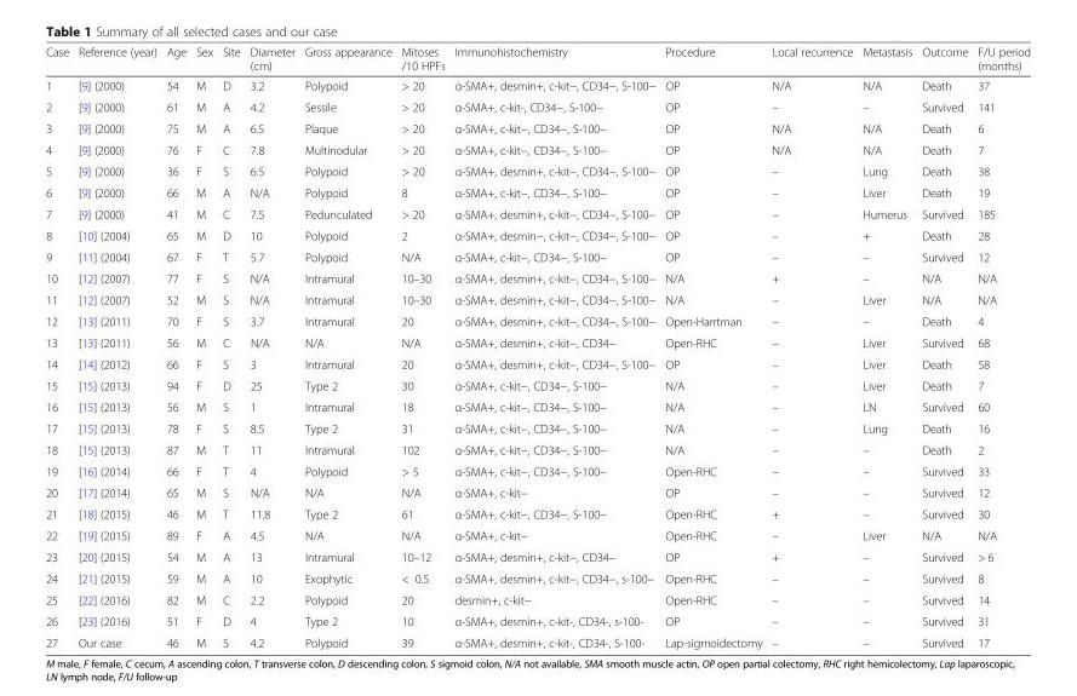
<table><thead><tr><td>Case</td><td>Reference (year)</td><td>Age</td><td>Sex</td><td>Site</td><td>Diameter (cm)</td><td>Gross appearance</td><td>Mitoses /10 HPFs</td><td>Immunohistochemistry</td><td>Procedure</td><td>Local recurrence</td><td>Metastasis</td><td>Outcome</td><td>F/U period (months)</td></tr></thead><tbody><tr><td>1</td><td>[9] (2000)</td><td>54</td><td>M</td><td>D</td><td>3.2</td><td>Polypoid</td><td>&gt; 20</td><td>α-SMA+, desmin+, c-kit−, CD34−, S-100−</td><td>OP</td><td>N/A</td><td>N/A</td><td>Death</td><td>37</td></tr><tr><td>2</td><td>[9] (2000)</td><td>61</td><td>M</td><td>A</td><td>4.2</td><td>Sessile</td><td>&gt; 20</td><td>α-SMA+, c-kit-, CD34−, S-100−</td><td>OP</td><td>–</td><td>–</td><td>Survived</td><td>141</td></tr><tr><td>3</td><td>[9] (2000)</td><td>75</td><td>M</td><td>A</td><td>6.5</td><td>Plaque</td><td>&gt; 20</td><td>α-SMA+, c-kit−, CD34−, S-100−</td><td>OP</td><td>N/A</td><td>N/A</td><td>Death</td><td>6</td></tr><tr><td>4</td><td>[9] (2000)</td><td>76</td><td>F</td><td>C</td><td>7.8</td><td>Multinodular</td><td>&gt; 20</td><td>α-SMA+, c-kit−, CD34−, S-100−</td><td>OP</td><td>N/A</td><td>N/A</td><td>Death</td><td>7</td></tr><tr><td>5</td><td>[9] (2000)</td><td>36</td><td>F</td><td>S</td><td>6.5</td><td>Polypoid</td><td>&gt; 20</td><td>α-SMA+, desmin+, c-kit−, CD34−, S-100−</td><td>OP</td><td>–</td><td>Lung</td><td>Death</td><td>38</td></tr><tr><td>6</td><td>[9] (2000)</td><td>66</td><td>M</td><td>A</td><td>N/A</td><td>Polypoid</td><td>8</td><td>α-SMA+, c-kit−, CD34−, S-100−</td><td>OP</td><td>–</td><td>Liver</td><td>Death</td><td>19</td></tr><tr><td>7</td><td>[9] (2000)</td><td>41</td><td>M</td><td>C</td><td>7.5</td><td>Pedunculated</td><td>&gt; 20</td><td>α-SMA+, desmin+, c-kit−, CD34−, S-100−</td><td>OP</td><td>–</td><td>Humerus</td><td>Survived</td><td>185</td></tr><tr><td>8</td><td>[10] (2004)</td><td>65</td><td>M</td><td>D</td><td>10</td><td>Polypoid</td><td>2</td><td>α-SMA+, desmin−, c-kit−, CD34−, S-100−</td><td>OP</td><td>–</td><td>+</td><td>Death</td><td>28</td></tr><tr><td>9</td><td>[11] (2004)</td><td>67</td><td>F</td><td>T</td><td>5.7</td><td>Polypoid</td><td>N/A</td><td>α-SMA+, c-kit−, CD34−, S-100−</td><td>OP</td><td>–</td><td>–</td><td>Survived</td><td>12</td></tr><tr><td>10</td><td>[12] (2007)</td><td>77</td><td>F</td><td>S</td><td>N/A</td><td>Intramural</td><td>10–30</td><td>α-SMA+, desmin+, c-kit−, CD34−, S-100−</td><td>N/A</td><td>+</td><td>–</td><td>N/A</td><td>N/A</td></tr><tr><td>11</td><td>[12] (2007)</td><td>52</td><td>M</td><td>S</td><td>N/A</td><td>Intramural</td><td>10–30</td><td>α-SMA+, desmin+, c-kit−, CD34−, S-100−</td><td>N/A</td><td>–</td><td>Liver</td><td>N/A</td><td>N/A</td></tr><tr><td>12</td><td>[13] (2011)</td><td>70</td><td>F</td><td>S</td><td>3.7</td><td>Intramural</td><td>20</td><td>α-SMA+, desmin+, c-kit−, CD34−, S-100−</td><td>Open-Harrtman</td><td>–</td><td>–</td><td>Death</td><td>4</td></tr><tr><td>13</td><td>[13] (2011)</td><td>56</td><td>M</td><td>C</td><td>N/A</td><td>N/A</td><td>N/A</td><td>α-SMA+, desmin+, c-kit−, CD34−</td><td>Open-RHC</td><td>–</td><td>Liver</td><td>Survived</td><td>68</td></tr><tr><td>14</td><td>[14] (2012)</td><td>66</td><td>F</td><td>S</td><td>3</td><td>Intramural</td><td>20</td><td>α-SMA+, desmin+, c-kit−, CD34−, S-100−</td><td>OP</td><td>–</td><td>Liver</td><td>Death</td><td>58</td></tr><tr><td>15</td><td>[15] (2013)</td><td>94</td><td>F</td><td>D</td><td>25</td><td>Type 2</td><td>30</td><td>α-SMA+, c-kit−, CD34−, S-100−</td><td>N/A</td><td>–</td><td>Liver</td><td>Death</td><td>7</td></tr><tr><td>16</td><td>[15] (2013)</td><td>56</td><td>M</td><td>S</td><td>1</td><td>Intramural</td><td>18</td><td>α-SMA+, c-kit−, CD34−, S-100−</td><td>N/A</td><td>–</td><td>LN</td><td>Survived</td><td>60</td></tr><tr><td>17</td><td>[15] (2013)</td><td>78</td><td>F</td><td>S</td><td>8.5</td><td>Type 2</td><td>31</td><td>α-SMA+, c-kit−, CD34−, S-100−</td><td>N/A</td><td>–</td><td>Lung</td><td>Death</td><td>16</td></tr><tr><td>18</td><td>[15] (2013)</td><td>87</td><td>M</td><td>T</td><td>11</td><td>Intramural</td><td>102</td><td>α-SMA+, c-kit−, CD34−, S-100−</td><td>N/A</td><td>–</td><td>–</td><td>Death</td><td>2</td></tr><tr><td>19</td><td>[16] (2014)</td><td>66</td><td>F</td><td>T</td><td>4</td><td>Polypoid</td><td>&gt; 5</td><td>α-SMA+, c-kit−, CD34−, S-100−</td><td>Open-RHC</td><td>–</td><td>–</td><td>Survived</td><td>33</td></tr><tr><td>20</td><td>[17] (2014)</td><td>65</td><td>M</td><td>S</td><td>N/A</td><td>N/A</td><td>N/A</td><td>α-SMA+, c-kit−</td><td>OP</td><td>–</td><td>–</td><td>Survived</td><td>12</td></tr><tr><td>21</td><td>[18] (2015)</td><td>46</td><td>M</td><td>T</td><td>11.8</td><td>Type 2</td><td>61</td><td>α-SMA+, c-kit−, CD34−, S-100−</td><td>Open-RHC</td><td>+</td><td>–</td><td>Survived</td><td>30</td></tr><tr><td>22</td><td>[19] (2015)</td><td>89</td><td>F</td><td>A</td><td>4.5</td><td>N/A</td><td>N/A</td><td>α-SMA+, c-kit−</td><td>Open-RHC</td><td>–</td><td>Liver</td><td>N/A</td><td>N/A</td></tr><tr><td>23</td><td>[20] (2015)</td><td>54</td><td>M</td><td>A</td><td>13</td><td>Intramural</td><td>10–12</td><td>α-SMA+, desmin+, c-kit−, CD34−</td><td>OP</td><td>+</td><td>–</td><td>Survived</td><td>&gt; 6</td></tr><tr><td>24</td><td>[21] (2015)</td><td>59</td><td>M</td><td>A</td><td>10</td><td>Exophytic</td><td>&lt; 0.5</td><td>α-SMA+, desmin+, c-kit−, CD34−, s-100−</td><td>Open-RHC</td><td>–</td><td>–</td><td>Survived</td><td>8</td></tr><tr><td>25</td><td>[22] (2016)</td><td>82</td><td>M</td><td>C</td><td>2.2</td><td>Polypoid</td><td>20</td><td>desmin+, c-kit−</td><td>Open-RHC</td><td>–</td><td>–</td><td>Survived</td><td>14</td></tr><tr><td>26</td><td>[23] (2016)</td><td>51</td><td>F</td><td>D</td><td>4</td><td>Type 2</td><td>10</td><td>α-SMA+, desmin+, c-kit-, CD34-, s-100-</td><td>OP</td><td>–</td><td>–</td><td>Survived</td><td>31</td></tr><tr><td>27</td><td>Our case</td><td>46</td><td>M</td><td>S</td><td>4.2</td><td>Polypoid</td><td>39</td><td>α-SMA+, desmin+, c-kit-, CD34-, S-100-</td><td>Lap-sigmoidectomy</td><td>–</td><td>–</td><td>Survived</td><td>17</td></tr></tbody></table>